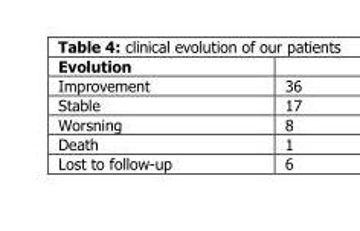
<table><thead><tr><td>Evolution</td><td></td></tr></thead><tbody><tr><td>Improvement</td><td>36</td></tr><tr><td>Stable</td><td>17</td></tr><tr><td>Worsning</td><td>8</td></tr><tr><td>Death</td><td>1</td></tr><tr><td>Lost to follow-up</td><td>6</td></tr></tbody></table>